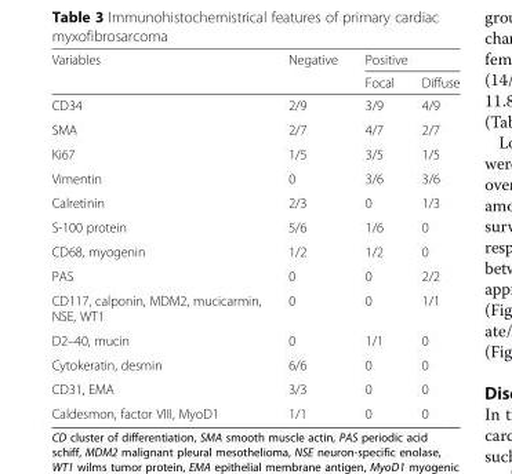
<table><thead><tr><td rowspan="2">Variables</td><td rowspan="2">Negative</td><td colspan="2">Positive</td></tr><tr><td>Focal</td><td>Diffuse</td></tr></thead><tbody><tr><td>CD34</td><td>2/9</td><td>3/9</td><td>4/9</td></tr><tr><td>SMA</td><td>2/7</td><td>4/7</td><td>2/7</td></tr><tr><td>Ki67</td><td>1/5</td><td>3/5</td><td>1/5</td></tr><tr><td>Vimentin</td><td>0</td><td>3/6</td><td>3/6</td></tr><tr><td>Calretinin</td><td>2/3</td><td>0</td><td>1/3</td></tr><tr><td>S-100 protein</td><td>5/6</td><td>1/6</td><td>0</td></tr><tr><td>CD68, myogenin</td><td>1/2</td><td>1/2</td><td>0</td></tr><tr><td>PAS</td><td>0</td><td>0</td><td>2/2</td></tr><tr><td>CD117, calponin, MDM2, mucicarmin, NSE, WT1</td><td>0</td><td>0</td><td>1/1</td></tr><tr><td>D2–40, mucin</td><td>0</td><td>1/1</td><td>0</td></tr><tr><td>Cytokeratin, desmin</td><td>6/6</td><td>0</td><td>0</td></tr><tr><td>CD31, EMA</td><td>3/3</td><td>0</td><td>0</td></tr><tr><td>Caldesmon, factor VIII, MyoD1</td><td>1/1</td><td>0</td><td>0</td></tr></tbody></table>